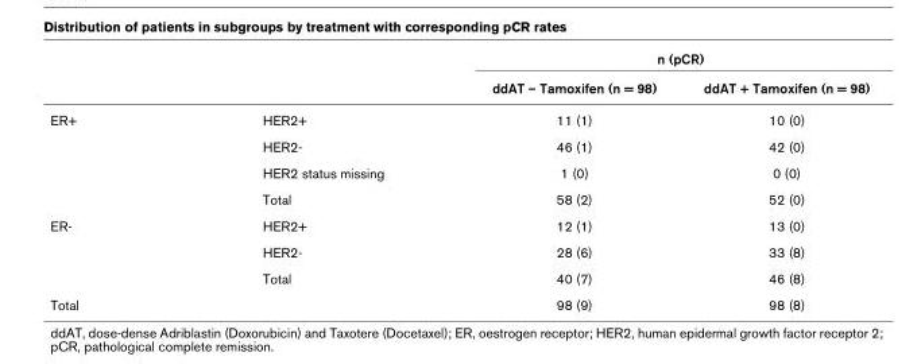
<table><thead><tr><td rowspan="2"></td><td rowspan="2"></td><td colspan="2">n (pCR)</td></tr><tr><td>ddAT – Tamoxifen (n = 98)</td><td>ddAT + Tamoxifen (n = 98)</td></tr></thead><tbody><tr><td rowspan="4">ER+</td><td>HER2+</td><td>11 (1)</td><td>10 (0)</td></tr><tr><td>HER2-</td><td>46 (1)</td><td>42 (0)</td></tr><tr><td>HER2 status missing</td><td>1 (0)</td><td>0 (0)</td></tr><tr><td>Total</td><td>58 (2)</td><td>52 (0)</td></tr><tr><td rowspan="3">ER-</td><td>HER2+</td><td>12 (1)</td><td>13 (0)</td></tr><tr><td>HER2-</td><td>28 (6)</td><td>33 (8)</td></tr><tr><td>Total</td><td>40 (7)</td><td>46 (8)</td></tr><tr><td>Total</td><td></td><td>98 (9)</td><td>98 (8)</td></tr></tbody></table>